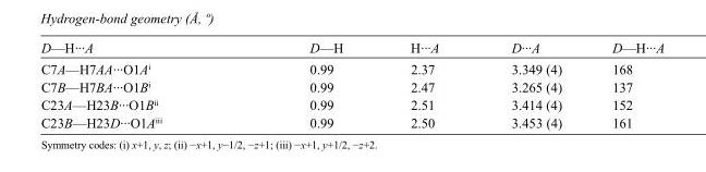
<table><tbody><tr><td>D—H···A</td><td>D—H</td><td>H···A</td><td>D···A</td><td>D—H···A</td></tr><tr><td>C7A—H7AA···O1A<sup>i</sup></td><td>0.99</td><td>2.37</td><td>3.349 (4)</td><td>168</td></tr><tr><td>C7B—H7BA···O1B<sup>i</sup></td><td>0.99</td><td>2.47</td><td>3.265 (4)</td><td>137</td></tr><tr><td>C23A—H23B···O1B<sup>ii</sup></td><td>0.99</td><td>2.51</td><td>3.414 (4)</td><td>152</td></tr><tr><td>C23B—H23D···O1A<sup>iii</sup></td><td>0.99</td><td>2.50</td><td>3.453 (4)</td><td>161</td></tr></tbody></table>